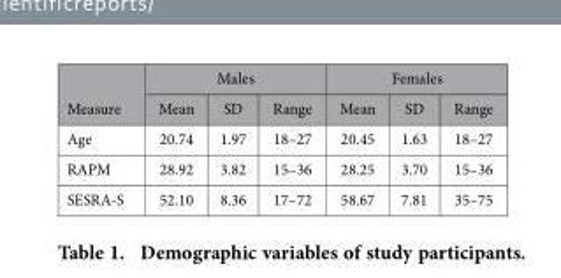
<table><thead><tr><td rowspan="2">Measure</td><td colspan="3">Males</td><td colspan="3">Females</td></tr><tr><td>Mean</td><td>SD</td><td>Range</td><td>Mean</td><td>SD</td><td>Range</td></tr></thead><tbody><tr><td>Age</td><td>20.74</td><td>1.97</td><td>18–27</td><td>20.45</td><td>1.63</td><td>18–27</td></tr><tr><td>RAPM</td><td>28.92</td><td>3.82</td><td>15–36</td><td>28.25</td><td>3.70</td><td>15–36</td></tr><tr><td>SESRA-S</td><td>52.10</td><td>8.36</td><td>17–72</td><td>58.67</td><td>7.81</td><td>35–75</td></tr></tbody></table>